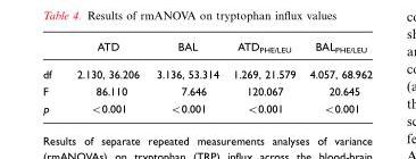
<table><thead><tr><td></td><td>ATD</td><td>BAL</td><td>ATD<sub>PHE/LEU</sub></td><td>BAL<sub>PHE/LEU</sub></td></tr></thead><tbody><tr><td>df</td><td>2.130, 36.206</td><td>3.136, 53.314</td><td>1.269, 21.579</td><td>4.057, 68.962</td></tr><tr><td>F</td><td>86.110</td><td>7.646</td><td>120.067</td><td>20.645</td></tr><tr><td>p</td><td>&lt;0.001</td><td>&lt;0.001</td><td>&lt;0.001</td><td>&lt;0.001</td></tr></tbody></table>